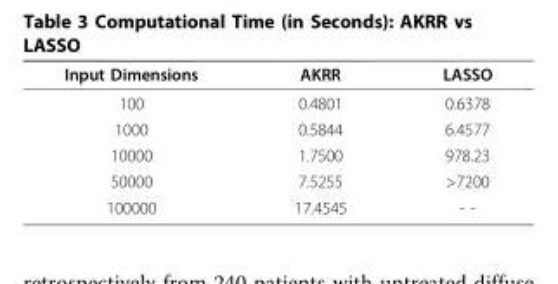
<table><thead><tr><td>Input Dimensions</td><td>AKRR</td><td>LASSO</td></tr></thead><tbody><tr><td>100</td><td>0.4801</td><td>0.6378</td></tr><tr><td>1000</td><td>0.5844</td><td>6.4577</td></tr><tr><td>10000</td><td>1.7500</td><td>978.23</td></tr><tr><td>50000</td><td>7.5255</td><td>&gt;7200</td></tr><tr><td>100000</td><td>17.4545</td><td>- -</td></tr></tbody></table>